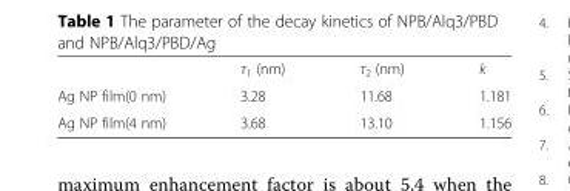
<table><thead><tr><td></td><td>τ<sub>1</sub> (nm)</td><td>τ<sub>2</sub> (nm)</td><td>k</td></tr></thead><tbody><tr><td>Ag NP film(0 nm)</td><td>3.28</td><td>11.68</td><td>1.181</td></tr><tr><td>Ag NP film(4 nm)</td><td>3.68</td><td>13.10</td><td>1.156</td></tr></tbody></table>